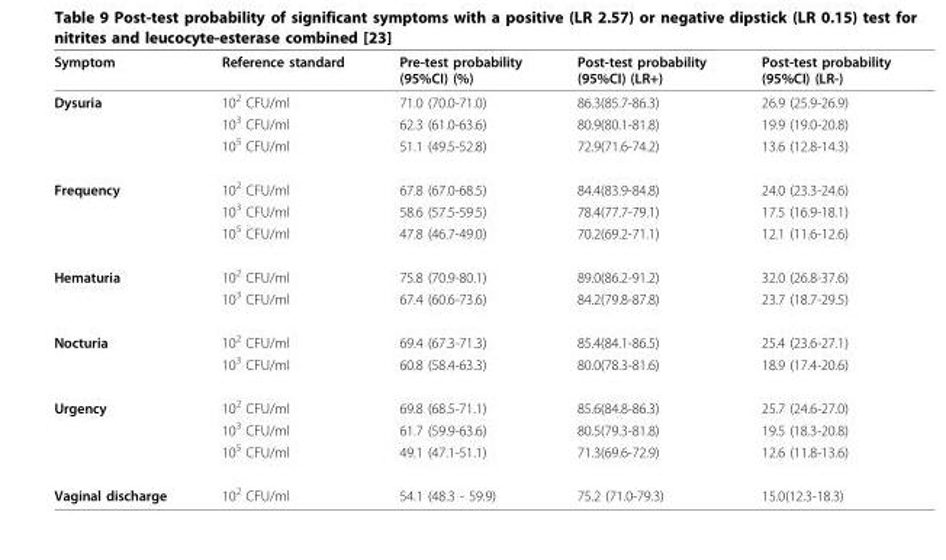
<table><thead><tr><td>Symptom</td><td>Reference standard</td><td>Pre-test probability (95%CI) (%)</td><td>Post-test probability (95%CI) (LR+)</td><td>Post-test probability (95%CI) (LR-)</td></tr></thead><tbody><tr><td rowspan="3">Dysuria</td><td>10<sup>2</sup> CFU/ml</td><td>71.0 (70.0-71.0)</td><td>86.3(85.7-86.3)</td><td>26.9 (25.9-26.9)</td></tr><tr><td>10<sup>3</sup> CFU/ml</td><td>62.3 (61.0-63.6)</td><td>80.9(80.1-81.8)</td><td>19.9 (19.0-20.8)</td></tr><tr><td>10<sup>5</sup> CFU/ml</td><td>51.1 (49.5-52.8)</td><td>72.9(71.6-74.2)</td><td>13.6 (12.8-14.3)</td></tr><tr><td rowspan="3">Frequency</td><td>10<sup>2</sup> CFU/ml</td><td>67.8 (67.0-68.5)</td><td>84.4(83.9-84.8)</td><td>24.0 (23.3-24.6)</td></tr><tr><td>10<sup>3</sup> CFU/ml</td><td>58.6 (57.5-59.5)</td><td>78.4(77.7-79.1)</td><td>17.5 (16.9-18.1)</td></tr><tr><td>10<sup>5</sup> CFU/ml</td><td>47.8 (46.7-49.0)</td><td>70.2(69.2-71.1)</td><td>12.1 (11.6-12.6)</td></tr><tr><td rowspan="2">Hematuria</td><td>10<sup>2</sup> CFU/ml</td><td>75.8 (70.9-80.1)</td><td>89.0(86.2-91.2)</td><td>32.0 (26.8-37.6)</td></tr><tr><td>10<sup>3</sup> CFU/ml</td><td>67.4 (60.6-73.6)</td><td>84.2(79.8-87.8)</td><td>23.7 (18.7-29.5)</td></tr><tr><td rowspan="2">Nocturia</td><td>10<sup>2</sup> CFU/ml</td><td>69.4 (67.3-71.3)</td><td>85.4(84.1-86.5)</td><td>25.4 (23.6-27.1)</td></tr><tr><td>10<sup>3</sup> CFU/ml</td><td>60.8 (58.4-63.3)</td><td>80.0(78.3-81.6)</td><td>18.9 (17.4-20.6)</td></tr><tr><td rowspan="3">Urgency</td><td>10<sup>2</sup> CFU/ml</td><td>69.8 (68.5-71.1)</td><td>85.6(84.8-86.3)</td><td>25.7 (24.6-27.0)</td></tr><tr><td>10<sup>3</sup> CFU/ml</td><td>61.7 (59.9-63.6)</td><td>80.5(79.3-81.8)</td><td>19.5 (18.3-20.8)</td></tr><tr><td>10<sup>5</sup> CFU/ml</td><td>49.1 (47.1-51.1)</td><td>71.3(69.6-72.9)</td><td>12.6 (11.8-13.6)</td></tr><tr><td>Vaginal discharge</td><td>10<sup>2</sup> CFU/ml</td><td>54.1 (48.3 - 59.9)</td><td>75.2 (71.0-79.3)</td><td>15.0(12.3-18.3)</td></tr></tbody></table>